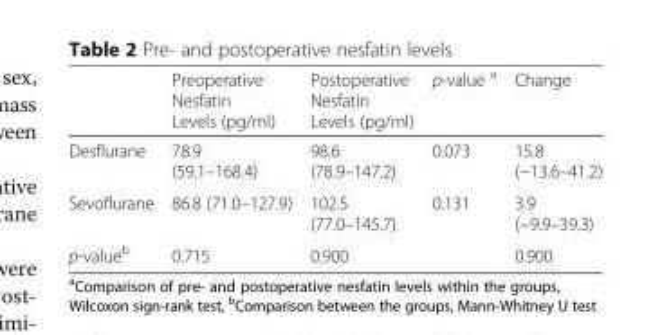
<table><thead><tr><td></td><td>Preoperative Nesfatin Levels (pg/ml)</td><td>Postoperative Nesfatin Levels (pg/ml)</td><td>p-value <sup>a</sup></td><td>Change</td></tr></thead><tbody><tr><td>Desflurane</td><td>78.9 (59.1–168.4)</td><td>98.6 (78.9–147.2)</td><td>0.073</td><td>15.8 (−13.6–41.2)</td></tr><tr><td>Sevoflurane</td><td>86.8 (71.0–127.9)</td><td>102.5 (77.0–145.7)</td><td>0.131</td><td>3.9 (−9.9–39.3)</td></tr><tr><td>p-value<sup>b</sup></td><td>0.715</td><td>0.900</td><td></td><td>0.900</td></tr></tbody></table>